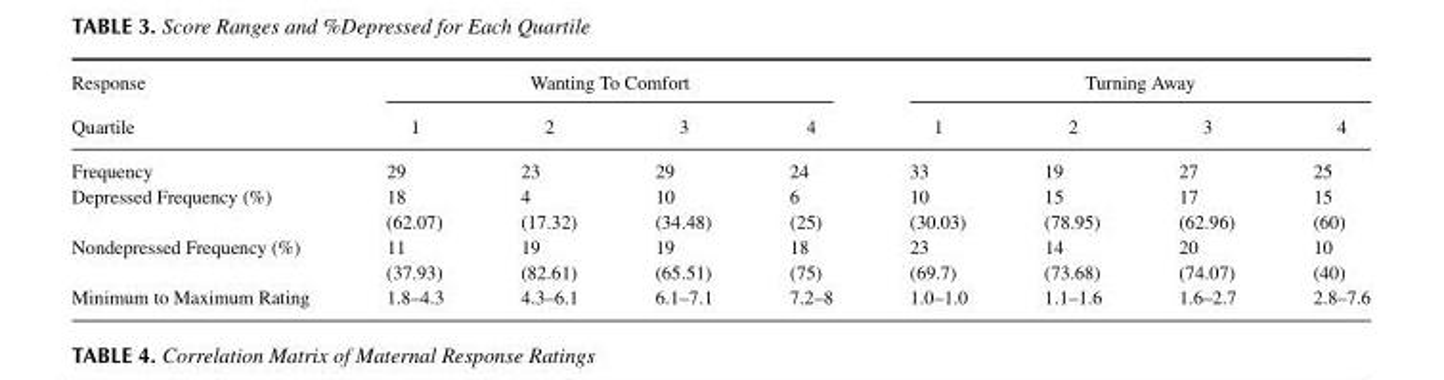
<table><thead><tr><td rowspan="2">Response Quartile</td><td colspan="4">Wanting To Comfort</td><td colspan="4">Turning Away</td></tr><tr><td>1</td><td>2</td><td>3</td><td>4</td><td>1</td><td>2</td><td>3</td><td>4</td></tr></thead><tbody><tr><td>Frequency</td><td>29</td><td>23</td><td>29</td><td>24</td><td>33</td><td>19</td><td>27</td><td>25</td></tr><tr><td rowspan="2">Depressed Frequency (%)</td><td>18</td><td>4</td><td>10</td><td>6</td><td>10</td><td>15</td><td>17</td><td>15</td></tr><tr><td>(62.07)</td><td>(17.32)</td><td>(34.48)</td><td>(25)</td><td>(30.03)</td><td>(78.95)</td><td>(62.96)</td><td>(60)</td></tr><tr><td rowspan="2">Nondepressed Frequency (%)</td><td>11</td><td>19</td><td>19</td><td>18</td><td>23</td><td>14</td><td>20</td><td>10</td></tr><tr><td>(37.93)</td><td>(82.61)</td><td>(65.51)</td><td>(75)</td><td>(69.7)</td><td>(73.68)</td><td>(74.07)</td><td>(40)</td></tr><tr><td>Minimum to Maximum Rating</td><td>1.8–4.3</td><td>4.3–6.1</td><td>6.1–7.1</td><td>7.2–8</td><td>1.0–1.0</td><td>1.1–1.6</td><td>1.6–2.7</td><td>2.8–7.6</td></tr></tbody></table>